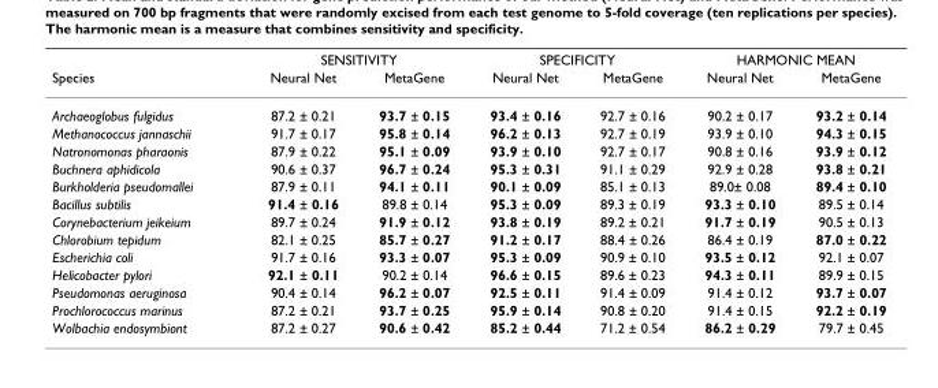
<table><thead><tr><td rowspan="2">Species</td><td colspan="2">SENSITIVITY</td><td colspan="2">SPECIFICITY</td><td colspan="2">HARMONIC MEAN</td></tr><tr><td>Neural Net</td><td>MetaGene</td><td>Neural Net</td><td>MetaGene</td><td>Neural Net</td><td>MetaGene</td></tr></thead><tbody><tr><td>Archaeoglobus fulgidus</td><td>87.2 ± 0.21</td><td>93.7 ± 0.15</td><td>93.4 ± 0.16</td><td>92.7 ± 0.16</td><td>90.2 ± 0.17</td><td>93.2 ± 0.14</td></tr><tr><td>Methanococcus jannaschii</td><td>91.7 ± 0.17</td><td>95.8 ± 0.14</td><td>96.2 ± 0.13</td><td>92.7 ± 0.19</td><td>93.9 ± 0.10</td><td>94.3 ± 0.15</td></tr><tr><td>Natronomonas pharaonis</td><td>87.9 ± 0.22</td><td>95.1 ± 0.09</td><td>93.9 ± 0.10</td><td>92.7 ± 0.17</td><td>90.8 ± 0.16</td><td>93.9 ± 0.12</td></tr><tr><td>Buchnera aphidicola</td><td>90.6 ± 0.37</td><td>96.7 ± 0.24</td><td>95.3 ± 0.31</td><td>91.1 ± 0.29</td><td>92.9 ± 0.28</td><td>93.8 ± 0.21</td></tr><tr><td>Burkholderia pseudomallei</td><td>87.9 ± 0.11</td><td>94.1 ± 0.11</td><td>90.1 ± 0.09</td><td>85.1 ± 0.13</td><td>89.0± 0.08</td><td>89.4 ± 0.10</td></tr><tr><td>Bacillus subtilis</td><td>91.4 ± 0.16</td><td>89.8 ± 0.14</td><td>95.3 ± 0.09</td><td>89.3 ± 0.19</td><td>93.3 ± 0.10</td><td>89.5 ± 0.14</td></tr><tr><td>Corynebacterium jeikeium</td><td>89.7 ± 0.24</td><td>91.9 ± 0.12</td><td>93.8 ± 0.19</td><td>89.2 ± 0.21</td><td>91.7 ± 0.19</td><td>90.5 ± 0.13</td></tr><tr><td>Chlorobium tepidum</td><td>82.1 ± 0.25</td><td>85.7 ± 0.27</td><td>91.2 ± 0.17</td><td>88.4 ± 0.26</td><td>86.4 ± 0.19</td><td>87.0 ± 0.22</td></tr><tr><td>Escherichia coli</td><td>91.7 ± 0.16</td><td>93.3 ± 0.07</td><td>95.3 ± 0.09</td><td>90.9 ± 0.10</td><td>93.5 ± 0.12</td><td>92.1 ± 0.07</td></tr><tr><td>Helicobacter pylori</td><td>92.1 ± 0.11</td><td>90.2 ± 0.14</td><td>96.6 ± 0.15</td><td>89.6 ± 0.23</td><td>94.3 ± 0.11</td><td>89.9 ± 0.15</td></tr><tr><td>Pseudomonas aeruginosa</td><td>90.4 ± 0.14</td><td>96.2 ± 0.07</td><td>92.5 ± 0.11</td><td>91.4 ± 0.09</td><td>91.4 ± 0.12</td><td>93.7 ± 0.07</td></tr><tr><td>Prochlorococcus marinus</td><td>87.2 ± 0.21</td><td>93.7 ± 0.25</td><td>95.9 ± 0.14</td><td>90.8 ± 0.20</td><td>91.4 ± 0.15</td><td>92.2 ± 0.19</td></tr><tr><td>Wolbachia endosymbiont</td><td>87.2 ± 0.27</td><td>90.6 ± 0.42</td><td>85.2 ± 0.44</td><td>71.2 ± 0.54</td><td>86.2 ± 0.29</td><td>79.7 ± 0.45</td></tr></tbody></table>